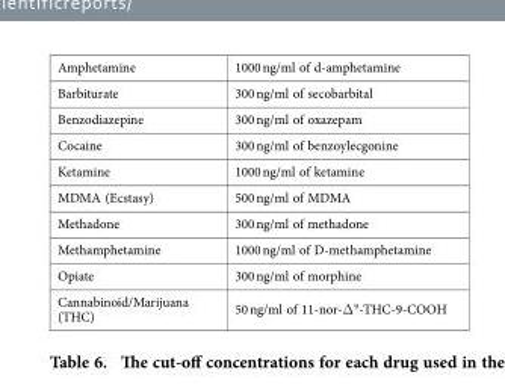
<table><tbody><tr><td>Amphetamine</td><td>1000 ng/ml of d-amphetamine</td></tr><tr><td>Barbiturate</td><td>300 ng/ml of secobarbital</td></tr><tr><td>Benzodiazepine</td><td>300 ng/ml of oxazepam</td></tr><tr><td>Cocaine</td><td>300 ng/ml of benzoylecgonine</td></tr><tr><td>Ketamine</td><td>1000 ng/ml of ketamine</td></tr><tr><td>MDMA (Ecstasy)</td><td>500 ng/ml of MDMA</td></tr><tr><td>Methadone</td><td>300 ng/ml of methadone</td></tr><tr><td>Methamphetamine</td><td>1000 ng/ml of D-methamphetamine</td></tr><tr><td>Opiate</td><td>300 ng/ml of morphine</td></tr><tr><td>Cannabinoid/Marijuana (THC)</td><td>50 ng/ml of 11-nor-Δ <sup>9</sup>-THC-9-COOH</td></tr></tbody></table>